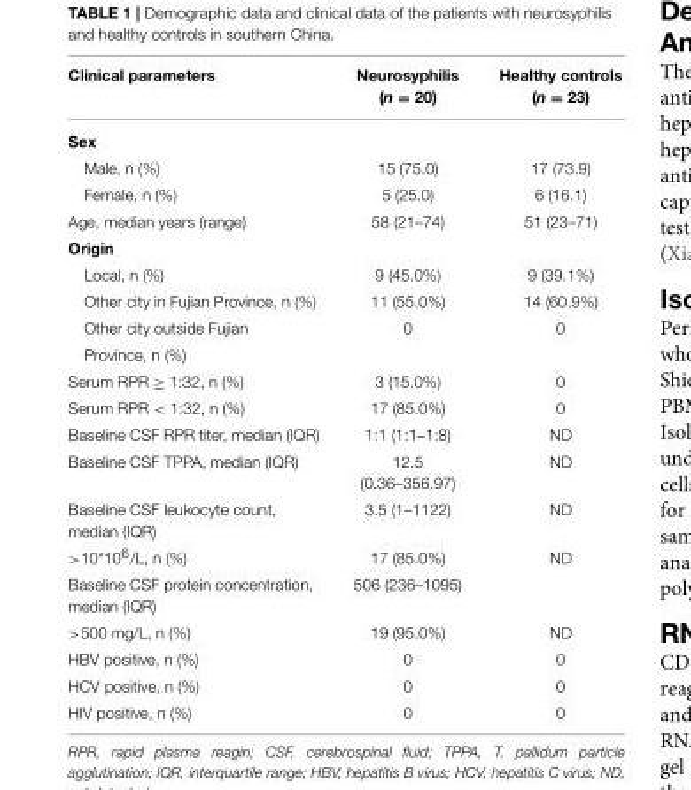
<table><thead><tr><td>Clinical parameters</td><td>Neurosyphilis (n = 20)</td><td>Healthy controls (n = 23)</td></tr></thead><tbody><tr><td colspan="3">Sex</td></tr><tr><td>Male, n (%)</td><td>15 (75.0)</td><td>17 (73.9)</td></tr><tr><td>Female, n (%)</td><td>5 (25.0)</td><td>6 (16.1)</td></tr><tr><td>Age, median years (range)</td><td>58 (21–74)</td><td>51 (23–71)</td></tr><tr><td colspan="3">Origin</td></tr><tr><td>Local, n (%)</td><td>9 (45.0%)</td><td>9 (39.1%)</td></tr><tr><td>Other city in Fujian Province, n (%)</td><td>11 (55.0%)</td><td>14 (60.9%)</td></tr><tr><td>Other city outside Fujian</td><td>0</td><td>0</td></tr><tr><td colspan="3">Province, n (%)</td></tr><tr><td>Serum RPR ≥ 1:32, n (%)</td><td>3 (15.0%)</td><td>0</td></tr><tr><td>Serum RPR &lt; 1:32, n (%)</td><td>17 (85.0%)</td><td>0</td></tr><tr><td>Baseline CSF RPR titer, median (IQR)</td><td>1:1 (1:1–1:8)</td><td>ND</td></tr><tr><td>Baseline CSF TPPA, median (IQR)</td><td>12.5 (0.36–356.97)</td><td>ND</td></tr><tr><td>Baseline CSF leukocyte count, median (IQR)</td><td>3.5 (1–1122)</td><td>ND</td></tr><tr><td>&gt;10*10<sup>6</sup>/L, n (%)</td><td>17 (85.0%)</td><td>ND</td></tr><tr><td>Baseline CSF protein concentration, median (IQR)</td><td>506 (236–1095)</td><td></td></tr><tr><td>&gt;500 mg/L, n (%)</td><td>19 (95.0%)</td><td>ND</td></tr><tr><td>HBV positive, n (%)</td><td>0</td><td>0</td></tr><tr><td>HCV positive, n (%)</td><td>0</td><td>0</td></tr><tr><td>HIV positive, n (%)</td><td>0</td><td>0</td></tr></tbody></table>